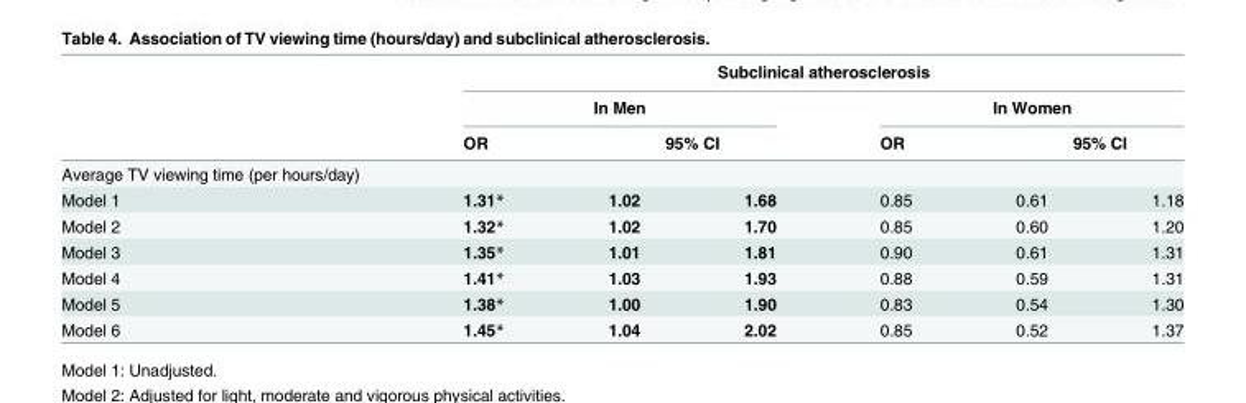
<table><thead><tr><td rowspan="4">Average TV viewing time (per hours/day)</td><td colspan="6">Subclinical atherosclerosis</td></tr><tr><td colspan="3">In Men</td><td colspan="3">In Women</td></tr><tr><td rowspan="2">OR</td><td colspan="2">95% CI</td><td rowspan="2">OR</td><td colspan="2">95% CI</td></tr><tr><td></td><td></td><td></td><td></td></tr></thead><tbody><tr><td>Model 1</td><td>1.31*</td><td>1.02</td><td>1.68</td><td>0.85</td><td>0.61</td><td>1.18</td></tr><tr><td>Model 2</td><td>1.32*</td><td>1.02</td><td>1.70</td><td>0.85</td><td>0.60</td><td>1.20</td></tr><tr><td>Model 3</td><td>1.35*</td><td>1.01</td><td>1.81</td><td>0.90</td><td>0.61</td><td>1.31</td></tr><tr><td>Model 4</td><td>1.41*</td><td>1.03</td><td>1.93</td><td>0.88</td><td>0.59</td><td>1.31</td></tr><tr><td>Model 5</td><td>1.38*</td><td>1.00</td><td>1.90</td><td>0.83</td><td>0.54</td><td>1.30</td></tr><tr><td>Model 6</td><td>1.45*</td><td>1.04</td><td>2.02</td><td>0.85</td><td>0.52</td><td>1.37</td></tr></tbody></table>